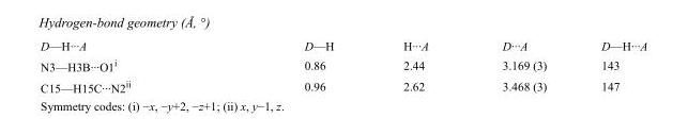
<table><tbody><tr><td>D—H···A</td><td>D—H</td><td>H···A</td><td>D···A</td><td>D—H···A</td></tr><tr><td>N3—H3B···O1<sup>i</sup></td><td>0.86</td><td>2.44</td><td>3.169 (3)</td><td>143</td></tr><tr><td>C15—H15C···N2<sup>ii</sup></td><td>0.96</td><td>2.62</td><td>3.468 (3)</td><td>147</td></tr></tbody></table>